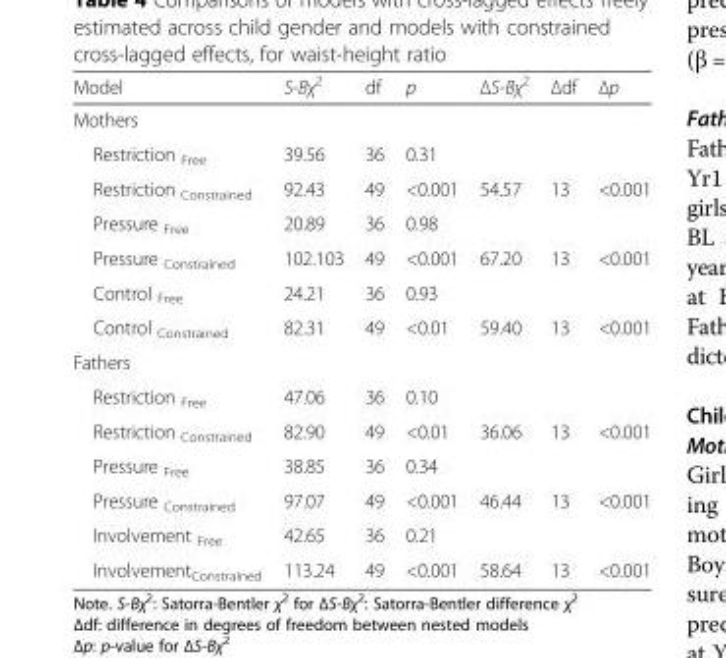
<table><thead><tr><td>Model</td><td>S-Bχ<sup>2</sup></td><td>df</td><td>p</td><td>ΔS-Bχ2</td><td>Δdf</td><td>Δp</td></tr></thead><tbody><tr><td colspan="7">Mothers</td></tr><tr><td>Restriction <sub>Free</sub></td><td>39.56</td><td>36</td><td>0.31</td><td></td><td></td><td></td></tr><tr><td>Restriction <sub>Constrained</sub></td><td>92.43</td><td>49</td><td>&lt;0.001</td><td>54.57</td><td>13</td><td>&lt;0.001</td></tr><tr><td>Pressure <sub>Free</sub></td><td>20.89</td><td>36</td><td>0.98</td><td></td><td></td><td></td></tr><tr><td>Pressure <sub>Constrained</sub></td><td>102.103</td><td>49</td><td>&lt;0.001</td><td>67.20</td><td>13</td><td>&lt;0.001</td></tr><tr><td>Control <sub>Free</sub></td><td>24.21</td><td>36</td><td>0.93</td><td></td><td></td><td></td></tr><tr><td>Control <sub>Constrained</sub></td><td>82.31</td><td>49</td><td>&lt;0.01</td><td>59.40</td><td>13</td><td>&lt;0.001</td></tr><tr><td colspan="7">Fathers</td></tr><tr><td>Restriction <sub>Free</sub></td><td>47.06</td><td>36</td><td>0.10</td><td></td><td></td><td></td></tr><tr><td>Restriction <sub>Constrained</sub></td><td>82.90</td><td>49</td><td>&lt;0.01</td><td>36.06</td><td>13</td><td>&lt;0.001</td></tr><tr><td>Pressure <sub>Free</sub></td><td>38.85</td><td>36</td><td>0.34</td><td></td><td></td><td></td></tr><tr><td>Pressure <sub>Constrained</sub></td><td>97.07</td><td>49</td><td>&lt;0.001</td><td>46.44</td><td>13</td><td>&lt;0.001</td></tr><tr><td>Involvement <sub>Free</sub></td><td>42.65</td><td>36</td><td>0.21</td><td></td><td></td><td></td></tr><tr><td>Involvement<sub>Constrained</sub></td><td>113.24</td><td>49</td><td>&lt;0.001</td><td>58.64</td><td>13</td><td>&lt;0.001</td></tr></tbody></table>